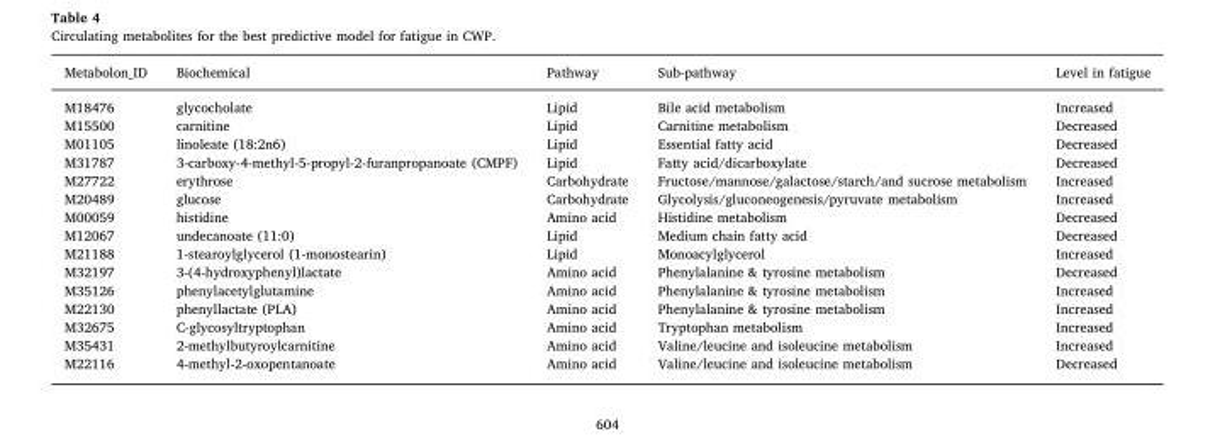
<table><thead><tr><td>Metabolon_ID</td><td>Biochemical</td><td>Pathway</td><td>Sub-pathway</td><td>Level in fatigue</td></tr></thead><tbody><tr><td>M18476</td><td>glycocholate</td><td>Lipid</td><td>Bile acid metabolism</td><td>Increased</td></tr><tr><td>M15500</td><td>carnitine</td><td>Lipid</td><td>Carnitine metabolism</td><td>Decreased</td></tr><tr><td>M01105</td><td>linoleate (18:2n6)</td><td>Lipid</td><td>Essential fatty acid</td><td>Decreased</td></tr><tr><td>M31787</td><td>3-carboxy-4-methyl-5-propyl-2-furanpropanoate (CMPF)</td><td>Lipid</td><td>Fatty acid/dicarboxylate</td><td>Decreased</td></tr><tr><td>M27722</td><td>erythrose</td><td>Carbohydrate</td><td>Fructose/mannose/galactose/starch/and sucrose metabolism</td><td>Increased</td></tr><tr><td>M20489</td><td>glucose</td><td>Carbohydrate</td><td>Glycolysis/gluconeogenesis/pyruvate metabolism</td><td>Increased</td></tr><tr><td>M00059</td><td>histidine</td><td>Amino acid</td><td>Histidine metabolism</td><td>Decreased</td></tr><tr><td>M12067</td><td>undecanoate (11:0)</td><td>Lipid</td><td>Medium chain fatty acid</td><td>Decreased</td></tr><tr><td>M21188</td><td>1-stearoylglycerol (1-monostearin)</td><td>Lipid</td><td>Monoacylglycerol</td><td>Increased</td></tr><tr><td>M32197</td><td>3-(4-hydroxyphenyl)lactate</td><td>Amino acid</td><td>Phenylalanine &amp; tyrosine metabolism</td><td>Decreased</td></tr><tr><td>M35126</td><td>phenylacetylglutamine</td><td>Amino acid</td><td>Phenylalanine &amp; tyrosine metabolism</td><td>Increased</td></tr><tr><td>M22130</td><td>phenyllactate (PLA)</td><td>Amino acid</td><td>Phenylalanine &amp; tyrosine metabolism</td><td>Increased</td></tr><tr><td>M32675</td><td>C-glycosyltryptophan</td><td>Amino acid</td><td>Tryptophan metabolism</td><td>Increased</td></tr><tr><td>M35431</td><td>2-methylbutyroylcarnitine</td><td>Amino acid</td><td>Valine/leucine and isoleucine metabolism</td><td>Increased</td></tr><tr><td>M22116</td><td>4-methyl-2-oxopentanoate</td><td>Amino acid</td><td>Valine/leucine and isoleucine metabolism</td><td>Decreased</td></tr></tbody></table>